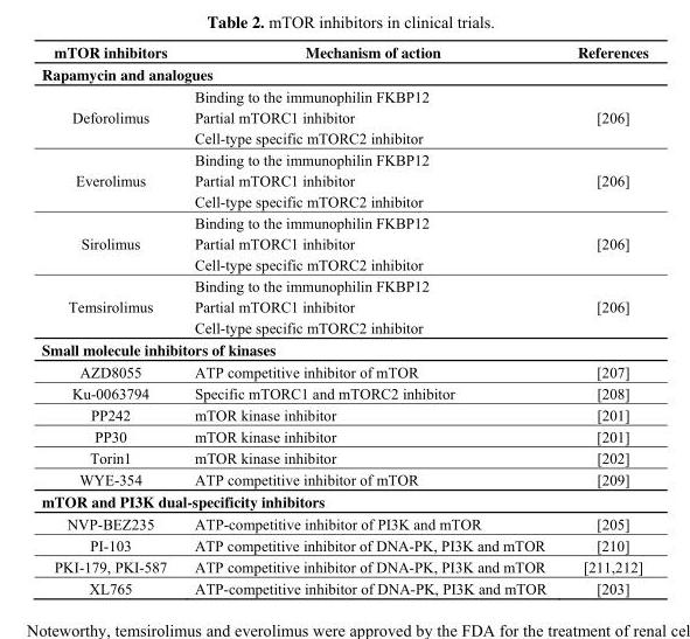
<table><thead><tr><td>mTOR inhibitors</td><td>Mechanism of action</td><td>References</td></tr></thead><tbody><tr><td colspan="3">Rapamycin and analogues</td></tr><tr><td>Deforolimus</td><td>Binding to the immunophilin FKBP12 Partial mTORC1 inhibitor Cell-type specific mTORC2 inhibitor</td><td>[206]</td></tr><tr><td>Everolimus</td><td>Binding to the immunophilin FKBP12 Partial mTORC1 inhibitor Cell-type specific mTORC2 inhibitor</td><td>[206]</td></tr><tr><td>Sirolimus</td><td>Binding to the immunophilin FKBP12 Partial mTORC1 inhibitor Cell-type specific mTORC2 inhibitor</td><td>[206]</td></tr><tr><td>Temsirolimus</td><td>Binding to the immunophilin FKBP12 Partial mTORC1 inhibitor Cell-type specific mTORC2 inhibitor</td><td>[206]</td></tr><tr><td colspan="3">Small molecule inhibitors of kinases</td></tr><tr><td>AZD8055</td><td>ATP competitive inhibitor of mTOR</td><td>[207]</td></tr><tr><td>Ku-0063794</td><td>Specific mTORC1 and mTORC2 inhibitor</td><td>[208]</td></tr><tr><td>PP242</td><td>mTOR kinase inhibitor</td><td>[201]</td></tr><tr><td>PP30</td><td>mTOR kinase inhibitor</td><td>[201]</td></tr><tr><td>Torin1</td><td>mTOR kinase inhibitor</td><td>[202]</td></tr><tr><td>WYE-354</td><td>ATP competitive inhibitor of mTOR</td><td>[209]</td></tr><tr><td colspan="3">mTOR and PI3K dual-specificity inhibitors</td></tr><tr><td>NVP-BEZ235</td><td>ATP-competitive inhibitor of PI3K and mTOR</td><td>[205]</td></tr><tr><td>PI-103</td><td>ATP competitive inhibitor of DNA-PK, PI3K and mTOR</td><td>[210]</td></tr><tr><td>PKI-179, PKI-587</td><td>ATP competitive inhibitor of DNA-PK, PI3K and mTOR</td><td>[211,212]</td></tr><tr><td>XL765</td><td>ATP-competitive inhibitor of DNA-PK, PI3K and mTOR</td><td>[203]</td></tr></tbody></table>